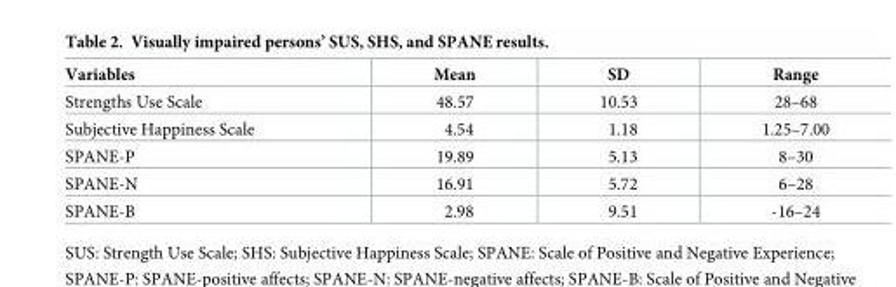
<table><thead><tr><td>Variables</td><td>Mean</td><td>SD</td><td>Range</td></tr></thead><tbody><tr><td>Strengths Use Scale</td><td>48.57</td><td>10.53</td><td>28–68</td></tr><tr><td>Subjective Happiness Scale</td><td>4.54</td><td>1.18</td><td>1.25–7.00</td></tr><tr><td>SPANE-P</td><td>19.89</td><td>5.13</td><td>8–30</td></tr><tr><td>SPANE-N</td><td>16.91</td><td>5.72</td><td>6–28</td></tr><tr><td>SPANE-B</td><td>2.98</td><td>9.51</td><td>-16–24</td></tr></tbody></table>